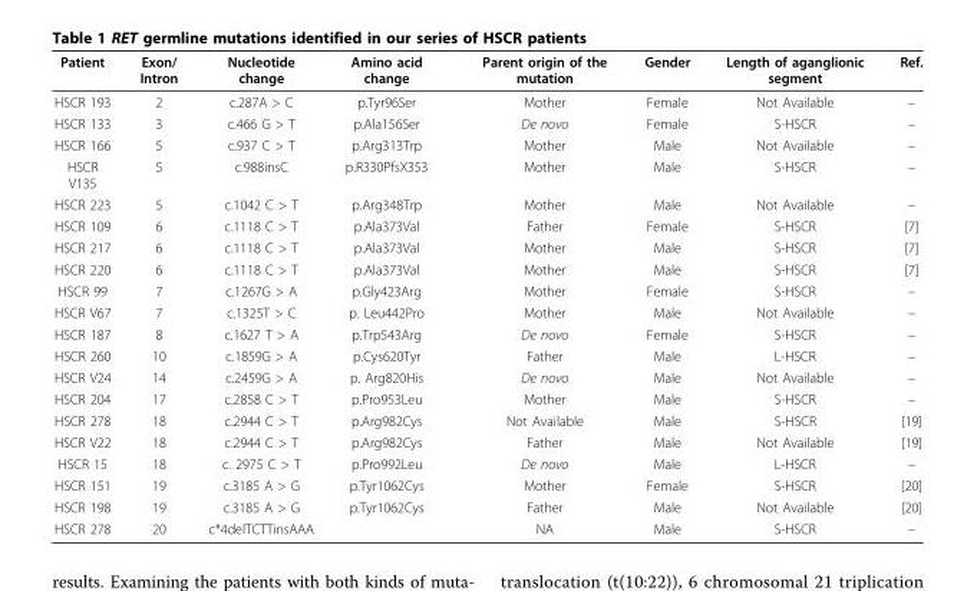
<table><thead><tr><td>Patient</td><td>Exon/ Intron</td><td>Nucleotide change</td><td>Amino acid change</td><td>Parent origin of the mutation</td><td>Gender</td><td>Length of aganglionic segment</td><td>Ref.</td></tr></thead><tbody><tr><td>HSCR 193</td><td>2</td><td>c.287A &gt; C</td><td>p.Tyr96Ser</td><td>Mother</td><td>Female</td><td>Not Available</td><td>–</td></tr><tr><td>HSCR 133</td><td>3</td><td>c.466 G &gt; T</td><td>p.Ala156Ser</td><td>De novo</td><td>Female</td><td>S-HSCR</td><td>–</td></tr><tr><td>HSCR 166</td><td>5</td><td>c.937 C &gt; T</td><td>p.Arg313Trp</td><td>Mother</td><td>Male</td><td>Not Available</td><td>–</td></tr><tr><td>HSCR V135</td><td>5</td><td>c.988insC</td><td>p.R330PfsX353</td><td>Mother</td><td>Male</td><td>S-HSCR</td><td>–</td></tr><tr><td>HSCR 223</td><td>5</td><td>c.1042 C &gt; T</td><td>p.Arg348Trp</td><td>Mother</td><td>Male</td><td>Not Available</td><td>–</td></tr><tr><td>HSCR 109</td><td>6</td><td>c.1118 C &gt; T</td><td>p.Ala373Val</td><td>Father</td><td>Female</td><td>S-HSCR</td><td>[7]</td></tr><tr><td>HSCR 217</td><td>6</td><td>c.1118 C &gt; T</td><td>p.Ala373Val</td><td>Mother</td><td>Male</td><td>S-HSCR</td><td>[7]</td></tr><tr><td>HSCR 220</td><td>6</td><td>c.1118 C &gt; T</td><td>p.Ala373Val</td><td>Mother</td><td>Male</td><td>S-HSCR</td><td>[7]</td></tr><tr><td>HSCR 99</td><td>7</td><td>c.1267G &gt; A</td><td>p.Gly423Arg</td><td>Mother</td><td>Female</td><td>S-HSCR</td><td>–</td></tr><tr><td>HSCR V67</td><td>7</td><td>c.1325T &gt; C</td><td>p. Leu442Pro</td><td>Mother</td><td>Male</td><td>Not Available</td><td>–</td></tr><tr><td>HSCR 187</td><td>8</td><td>c.1627 T &gt; A</td><td>p.Trp543Arg</td><td>De novo</td><td>Female</td><td>S-HSCR</td><td>–</td></tr><tr><td>HSCR 260</td><td>10</td><td>c.1859G &gt; A</td><td>p.Cys620Tyr</td><td>Father</td><td>Male</td><td>L-HSCR</td><td>–</td></tr><tr><td>HSCR V24</td><td>14</td><td>c.2459G &gt; A</td><td>p. Arg820His</td><td>De novo</td><td>Male</td><td>Not Available</td><td>–</td></tr><tr><td>HSCR 204</td><td>17</td><td>c.2858 C &gt; T</td><td>p.Pro953Leu</td><td>Mother</td><td>Male</td><td>S-HSCR</td><td>–</td></tr><tr><td>HSCR 278</td><td>18</td><td>c.2944 C &gt; T</td><td>p.Arg982Cys</td><td>Not Available</td><td>Male</td><td>S-HSCR</td><td>[19]</td></tr><tr><td>HSCR V22</td><td>18</td><td>c.2944 C &gt; T</td><td>p.Arg982Cys</td><td>Father</td><td>Male</td><td>Not Available</td><td>[19]</td></tr><tr><td>HSCR 15</td><td>18</td><td>c. 2975 C &gt; T</td><td>p.Pro992Leu</td><td>De novo</td><td>Male</td><td>L-HSCR</td><td>–</td></tr><tr><td>HSCR 151</td><td>19</td><td>c.3185 A &gt; G</td><td>p.Tyr1062Cys</td><td>Mother</td><td>Female</td><td>S-HSCR</td><td>[20]</td></tr><tr><td>HSCR 198</td><td>19</td><td>c.3185 A &gt; G</td><td>p.Tyr1062Cys</td><td>Father</td><td>Male</td><td>Not Available</td><td>[20]</td></tr><tr><td>HSCR 278</td><td>20</td><td>c*4delTCTTinsAAA</td><td></td><td>NA</td><td>Male</td><td>S-HSCR</td><td>–</td></tr></tbody></table>